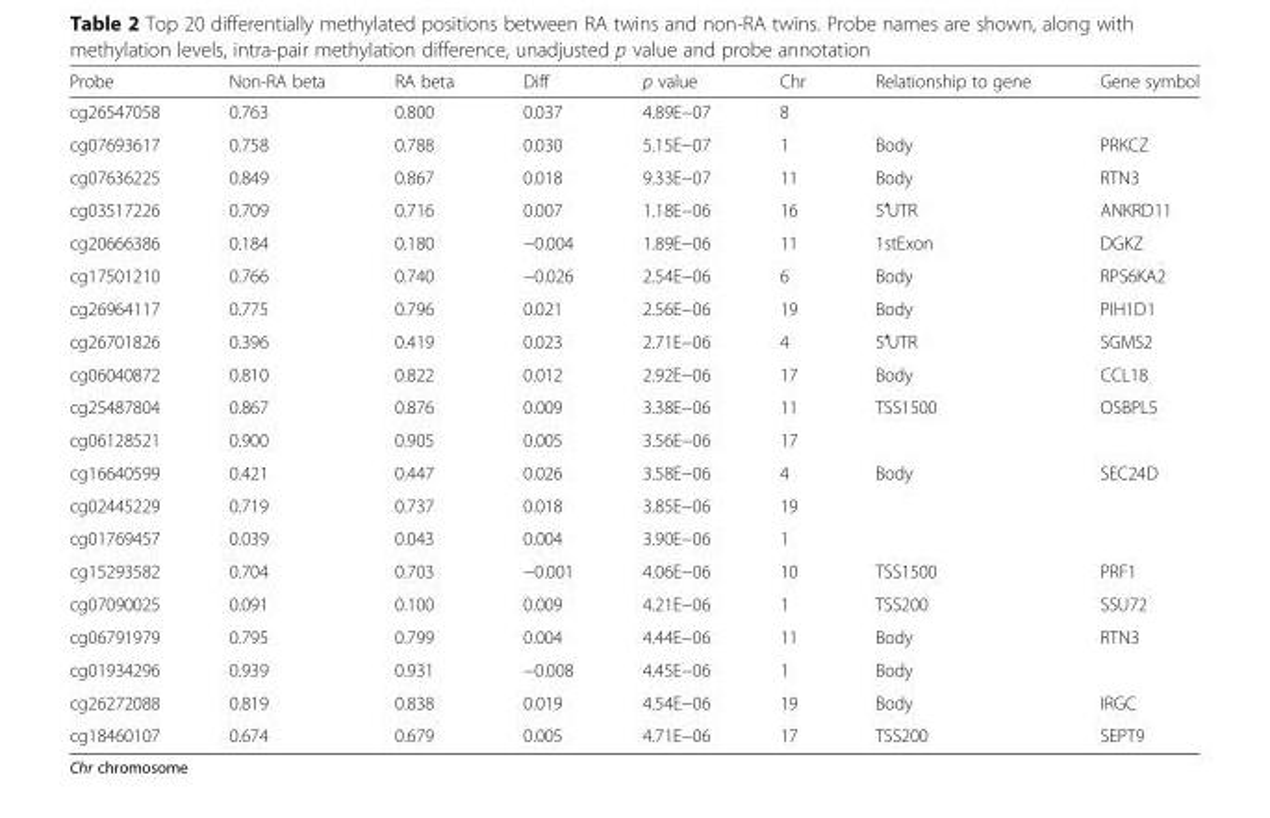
<table><thead><tr><td>Probe</td><td>Non-RA beta</td><td>RA beta</td><td>Diff</td><td>p value</td><td>Chr</td><td>Relationship to gene</td><td>Gene symbol</td></tr></thead><tbody><tr><td>cg26547058</td><td>0.763</td><td>0.800</td><td>0.037</td><td>4.89E−07</td><td>8</td><td></td><td></td></tr><tr><td>cg07693617</td><td>0.758</td><td>0.788</td><td>0.030</td><td>5.15E−07</td><td>1</td><td>Body</td><td>PRKCZ</td></tr><tr><td>cg07636225</td><td>0.849</td><td>0.867</td><td>0.018</td><td>9.33E−07</td><td>11</td><td>Body</td><td>RTN3</td></tr><tr><td>cg03517226</td><td>0.709</td><td>0.716</td><td>0.007</td><td>1.18E−06</td><td>16</td><td>5′UTR</td><td>ANKRD11</td></tr><tr><td>cg20666386</td><td>0.184</td><td>0.180</td><td>−0.004</td><td>1.89E−06</td><td>11</td><td>1stExon</td><td>DGKZ</td></tr><tr><td>cg17501210</td><td>0.766</td><td>0.740</td><td>−0.026</td><td>2.54E−06</td><td>6</td><td>Body</td><td>RPS6KA2</td></tr><tr><td>cg26964117</td><td>0.775</td><td>0.796</td><td>0.021</td><td>2.56E−06</td><td>19</td><td>Body</td><td>PIH1D1</td></tr><tr><td>cg26701826</td><td>0.396</td><td>0.419</td><td>0.023</td><td>2.71E−06</td><td>4</td><td>5′UTR</td><td>SGMS2</td></tr><tr><td>cg06040872</td><td>0.810</td><td>0.822</td><td>0.012</td><td>2.92E−06</td><td>17</td><td>Body</td><td>CCL18</td></tr><tr><td>cg25487804</td><td>0.867</td><td>0.876</td><td>0.009</td><td>3.38E−06</td><td>11</td><td>TSS1500</td><td>OSBPL5</td></tr><tr><td>cg06128521</td><td>0.900</td><td>0.905</td><td>0.005</td><td>3.56E−06</td><td>17</td><td></td><td></td></tr><tr><td>cg16640599</td><td>0.421</td><td>0.447</td><td>0.026</td><td>3.58E−06</td><td>4</td><td>Body</td><td>SEC24D</td></tr><tr><td>cg02445229</td><td>0.719</td><td>0.737</td><td>0.018</td><td>3.85E−06</td><td>19</td><td></td><td></td></tr><tr><td>cg01769457</td><td>0.039</td><td>0.043</td><td>0.004</td><td>3.90E−06</td><td>1</td><td></td><td></td></tr><tr><td>cg15293582</td><td>0.704</td><td>0.703</td><td>−0.001</td><td>4.06E−06</td><td>10</td><td>TSS1500</td><td>PRF1</td></tr><tr><td>cg07090025</td><td>0.091</td><td>0.100</td><td>0.009</td><td>4.21E−06</td><td>1</td><td>TSS200</td><td>SSU72</td></tr><tr><td>cg06791979</td><td>0.795</td><td>0.799</td><td>0.004</td><td>4.44E−06</td><td>11</td><td>Body</td><td>RTN3</td></tr><tr><td>cg01934296</td><td>0.939</td><td>0.931</td><td>−0.008</td><td>4.45E−06</td><td>1</td><td>Body</td><td></td></tr><tr><td>cg26272088</td><td>0.819</td><td>0.838</td><td>0.019</td><td>4.54E−06</td><td>19</td><td>Body</td><td>IRGC</td></tr><tr><td>cg18460107</td><td>0.674</td><td>0.679</td><td>0.005</td><td>4.71E−06</td><td>17</td><td>TSS200</td><td>SEPT9</td></tr></tbody></table>